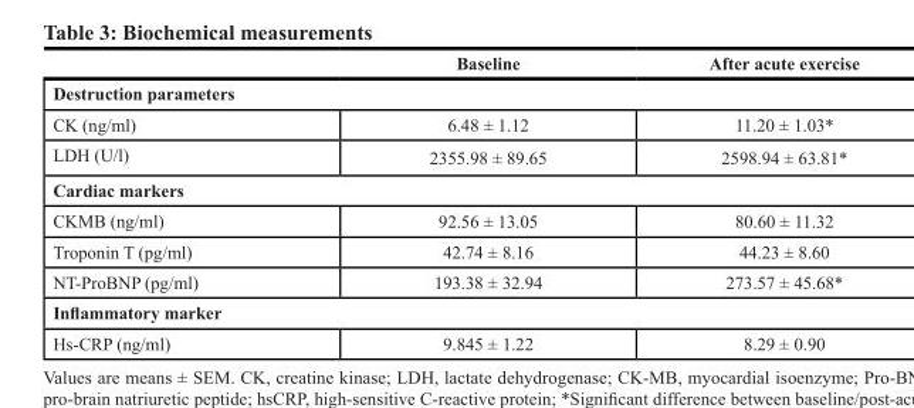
<table><thead><tr><td></td><td>Baseline</td><td>After acute exercise</td></tr></thead><tbody><tr><td colspan="3">Destruction parameters</td></tr><tr><td>CK (ng/ml)</td><td>6.48 ± 1.12</td><td>11.20 ± 1.03*</td></tr><tr><td>LDH (U/l)</td><td>2355.98 ± 89.65</td><td>2598.94 ± 63.81*</td></tr><tr><td colspan="3">Cardiac markers</td></tr><tr><td>CKMB (ng/ml)</td><td>92.56 ± 13.05</td><td>80.60 ± 11.32</td></tr><tr><td>Troponin T (pg/ml)</td><td>42.74 ± 8.16</td><td>44.23 ± 8.60</td></tr><tr><td>NT-ProBNP (pg/ml)</td><td>193.38 ± 32.94</td><td>273.57 ± 45.68*</td></tr><tr><td colspan="3">Inflammatory marker</td></tr><tr><td>Hs-CRP (ng/ml)</td><td>9.845 ± 1.22</td><td>8.29 ± 0.90</td></tr></tbody></table>